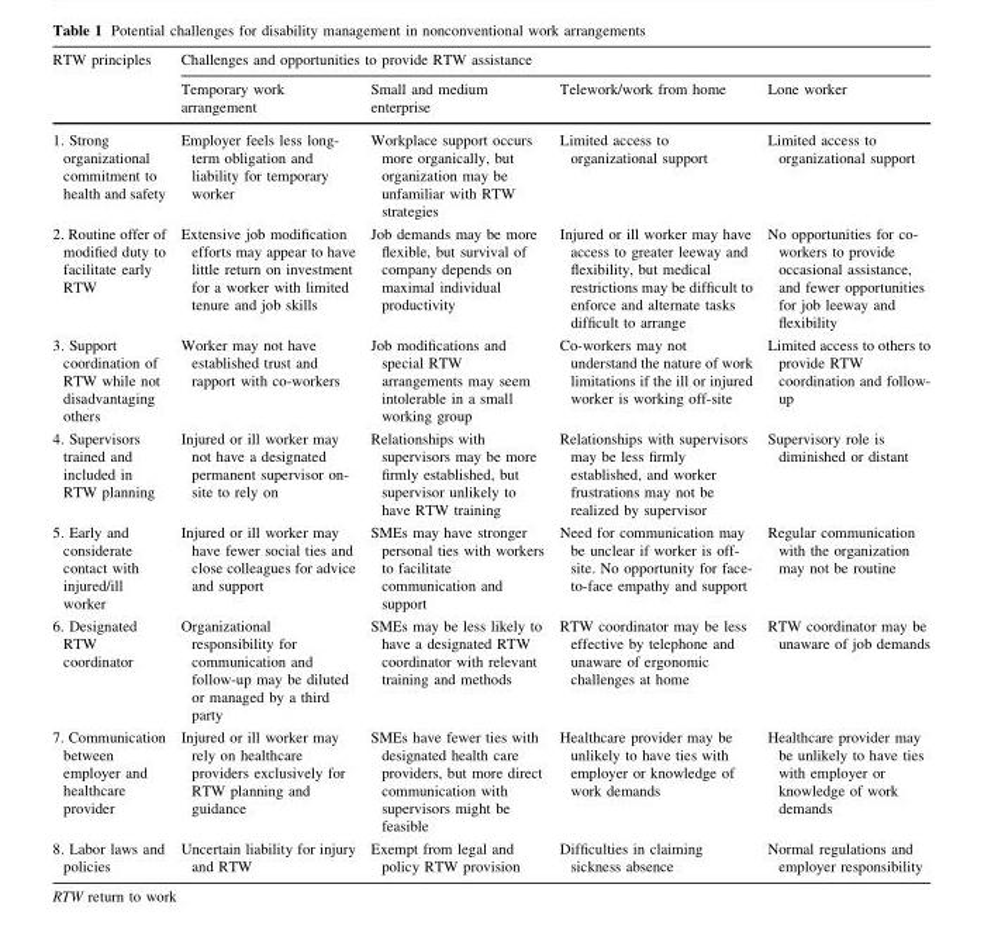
<table><thead><tr><td rowspan="2">RTW principles</td><td colspan="4">Challenges and opportunities to provide RTW assistance</td></tr><tr><td>Temporary work arrangement</td><td>Small and medium enterprise</td><td>Telework/work from home</td><td>Lone worker</td></tr></thead><tbody><tr><td>1. Strong organizational commitment to health and safety</td><td>Employer feels less long- term obligation and liability for temporary worker</td><td>Workplace support occurs more organically, but organization may be unfamiliar with RTW strategies</td><td>Limited access to organizational support</td><td>Limited access to organizational support</td></tr><tr><td>2. Routine offer of modified duty to facilitate early RTW</td><td>Extensive job modification efforts may appear to have little return on investment for a worker with limited tenure and job skills</td><td>Job demands may be more flexible, but survival of company depends on maximal individual productivity</td><td>Injured or ill worker may have access to greater leeway and flexibility, but medical restrictions may be difficult to enforce and alternate tasks difficult to arrange</td><td>No opportunities for co- workers to provide occasional assistance, and fewer opportunities for job leeway and flexibility</td></tr><tr><td>3. Support coordination of RTW while not disadvantaging others</td><td>Worker may not have established trust and rapport with co-workers</td><td>Job modifications and special RTW arrangements may seem intolerable in a small working group</td><td>Co-workers may not understand the nature of work limitations if the ill or injured worker is working off-site</td><td>Limited access to others to provide RTW coordination and follow- up</td></tr><tr><td>4. Supervisors trained and included in RTW planning</td><td>Injured or ill worker may not have a designated permanent supervisor on- site to rely on</td><td>Relationships with supervisors may be more firmly established, but supervisor unlikely to have RTW training</td><td>Relationships with supervisors may be less firmly established, and worker frustrations may not be realized by supervisor</td><td>Supervisory role is diminished or distant</td></tr><tr><td>5. Early and considerate contact with injured/ill worker</td><td>Injured or ill worker may have fewer social ties and close colleagues for advice and support</td><td>SMEs may have stronger personal ties with workers to facilitate communication and support</td><td>Need for communication may be unclear if worker is off- site. No opportunity for face- to-face empathy and support</td><td>Regular communication with the organization may not be routine</td></tr><tr><td>6. Designated RTW coordinator</td><td>Organizational responsibility for communication and follow-up may be diluted or managed by a third party</td><td>SMEs may be less likely to have a designated RTW coordinator with relevant training and methods</td><td>RTW coordinator may be less effective by telephone and unaware of ergonomic challenges at home</td><td>RTW coordinator may be unaware of job demands</td></tr><tr><td>7. Communication between employer and healthcare provider</td><td>Injured or ill worker may rely on healthcare providers exclusively for RTW planning and guidance</td><td>SMEs have fewer ties with designated health care providers, but more direct communication with supervisors might be feasible</td><td>Healthcare provider may be unlikely to have ties with employer or knowledge of work demands</td><td>Healthcare provider may be unlikely to have ties with employer or knowledge of work demands</td></tr><tr><td>8. Labor laws and policies</td><td>Uncertain liability for injury and RTW</td><td>Exempt from legal and policy RTW provision</td><td>Difficulties in claiming sickness absence</td><td>Normal regulations and employer responsibility</td></tr></tbody></table>